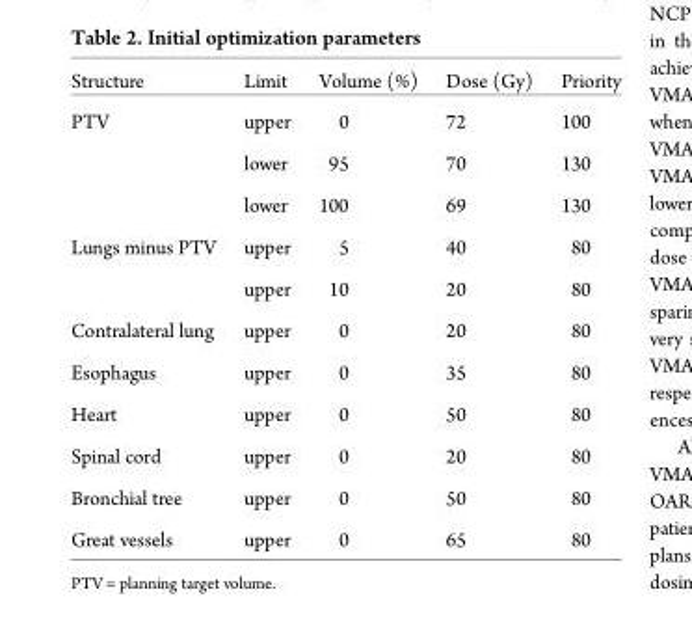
<table><thead><tr><td>Structure</td><td>Limit</td><td>Volume (%)</td><td>Dose (Gy)</td><td>Priority</td></tr></thead><tbody><tr><td rowspan="3">PTV</td><td>upper</td><td>0</td><td>72</td><td>100</td></tr><tr><td>lower</td><td>95</td><td>70</td><td>130</td></tr><tr><td>lower</td><td>100</td><td>69</td><td>130</td></tr><tr><td rowspan="2">Lungs minus PTV</td><td>upper</td><td>5</td><td>40</td><td>80</td></tr><tr><td>upper</td><td>10</td><td>20</td><td>80</td></tr><tr><td>Contralateral lung</td><td>upper</td><td>0</td><td>20</td><td>80</td></tr><tr><td>Esophagus</td><td>upper</td><td>0</td><td>35</td><td>80</td></tr><tr><td>Heart</td><td>upper</td><td>0</td><td>50</td><td>80</td></tr><tr><td>Spinal cord</td><td>upper</td><td>0</td><td>20</td><td>80</td></tr><tr><td>Bronchial tree</td><td>upper</td><td>0</td><td>50</td><td>80</td></tr><tr><td>Great vessels</td><td>upper</td><td>0</td><td>65</td><td>80</td></tr></tbody></table>